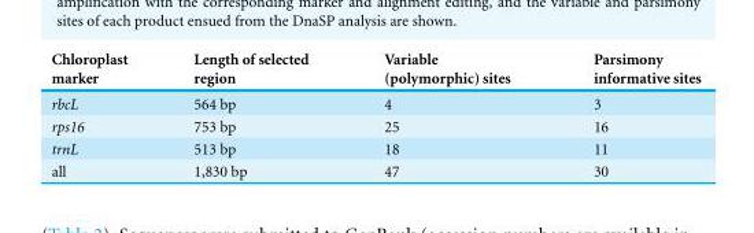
<table><thead><tr><td>Chloroplast marker</td><td>Length of selected region</td><td>Variable (polymorphic) sites</td><td>Parsimony informative sites</td></tr></thead><tbody><tr><td>rbcL</td><td>564 bp</td><td>4</td><td>3</td></tr><tr><td>rps16</td><td>753 bp</td><td>25</td><td>16</td></tr><tr><td>trnL</td><td>513 bp</td><td>18</td><td>11</td></tr><tr><td>all</td><td>1,830 bp</td><td>47</td><td>30</td></tr></tbody></table>